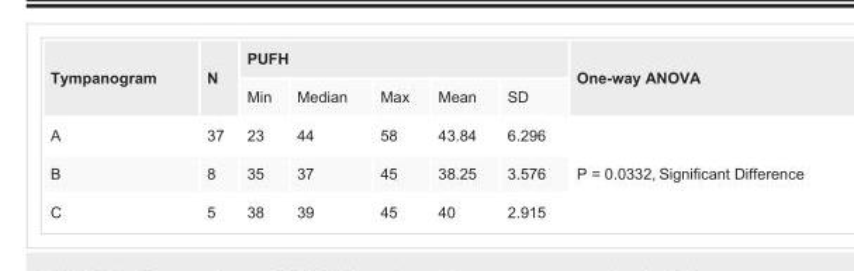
<table><tbody><tr><td rowspan="2">Tympanogram</td><td rowspan="2">N</td><td colspan="5">PUFH</td><td rowspan="2">One-way ANOVA</td></tr><tr><td>Min</td><td>Median</td><td>Max</td><td>Mean</td><td>SD</td></tr><tr><td>A</td><td>37</td><td>23</td><td>44</td><td>58</td><td>43.84</td><td>6.296</td><td rowspan="3">P = 0.0332, Significant Difference</td></tr><tr><td>B</td><td>8</td><td>35</td><td>37</td><td>45</td><td>38.25</td><td>3.576</td></tr><tr><td>C</td><td>5</td><td>38</td><td>39</td><td>45</td><td>40</td><td>2.915</td></tr></tbody></table>